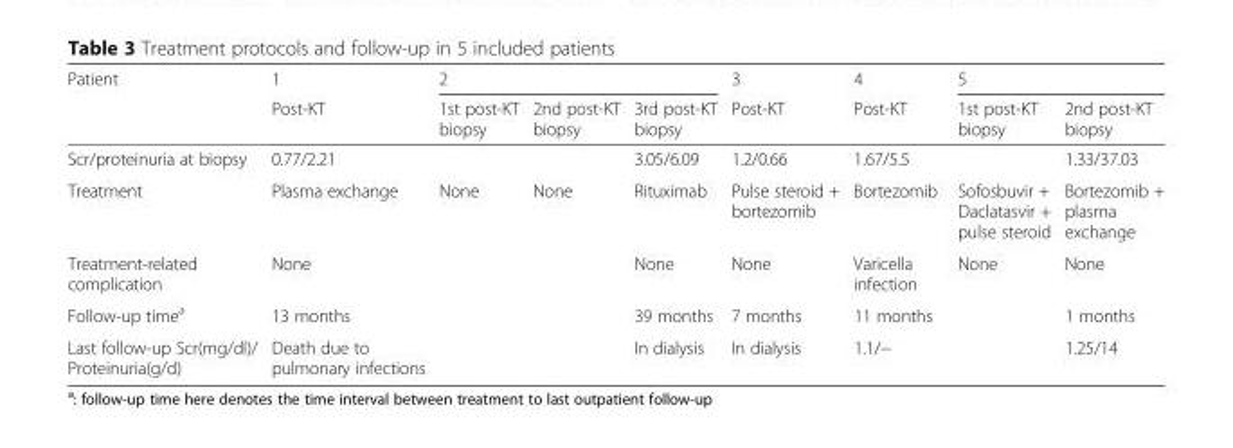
<table><thead><tr><td rowspan="2">Patient</td><td rowspan="2">1 Post-KT</td><td colspan="3">2</td><td rowspan="2">3 Post-KT</td><td rowspan="2">4 Post-KT</td><td colspan="2">5</td></tr><tr><td>1st post-KT biopsy</td><td>2nd post-KT biopsy</td><td>3rd post-KT biopsy</td><td>1st post-KT biopsy</td><td>2nd post-KT biopsy</td></tr></thead><tbody><tr><td>Scr/proteinuria at biopsy</td><td>0.77/2.21</td><td></td><td></td><td>3.05/6.09</td><td>1.2/0.66</td><td>1.67/5.5</td><td></td><td>1.33/37.03</td></tr><tr><td>Treatment</td><td>Plasma exchange</td><td>None</td><td>None</td><td>Rituximab</td><td>Pulse steroid + bortezomib</td><td>Bortezomib</td><td>Sofosbuvir + Daclatasvir + pulse steroid</td><td>Bortezomib + plasma exchange</td></tr><tr><td>Treatment-related complication</td><td>None</td><td></td><td></td><td>None</td><td>None</td><td>Varicella infection</td><td>None</td><td>None</td></tr><tr><td>Follow-up time<sup>a</sup></td><td>13 months</td><td></td><td></td><td>39 months</td><td>7 months</td><td>11 months</td><td></td><td>1 months</td></tr><tr><td>Last follow-up Scr(mg/dl)/ Proteinuria(g/d)</td><td>Death due to pulmonary infections</td><td></td><td></td><td>In dialysis</td><td>In dialysis</td><td>1.1/−</td><td></td><td>1.25/14</td></tr></tbody></table>